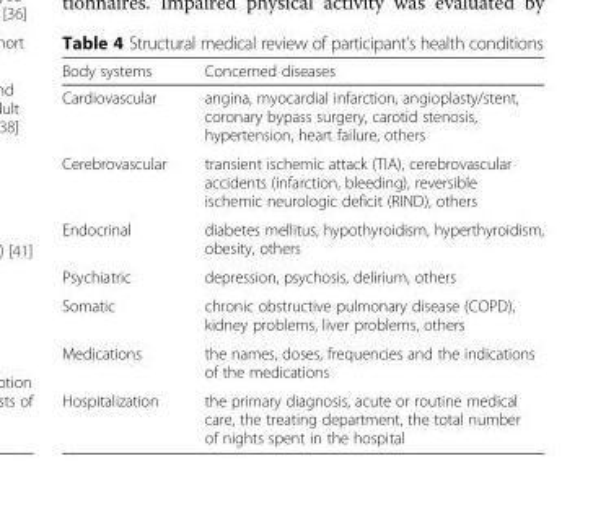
<table><thead><tr><td>Body systems</td><td>Concerned diseases</td></tr></thead><tbody><tr><td>Cardiovascular</td><td>angina, myocardial infarction, angioplasty/stent, coronary bypass surgery, carotid stenosis, hypertension, heart failure, others</td></tr><tr><td>Cerebrovascular</td><td>transient ischemic attack (TIA), cerebrovascular accidents (infarction, bleeding), reversible ischemic neurologic deficit (RIND), others</td></tr><tr><td>Endocrinal</td><td>diabetes mellitus, hypothyroidism, hyperthyroidism, obesity, others</td></tr><tr><td>Psychiatric</td><td>depression, psychosis, delirium, others</td></tr><tr><td>Somatic</td><td>chronic obstructive pulmonary disease (COPD), kidney problems, liver problems, others</td></tr><tr><td>Medications</td><td>the names, doses, frequencies and the indications of the medications</td></tr><tr><td>Hospitalization</td><td>the primary diagnosis, acute or routine medical care, the treating department, the total number of nights spent in the hospital</td></tr></tbody></table>